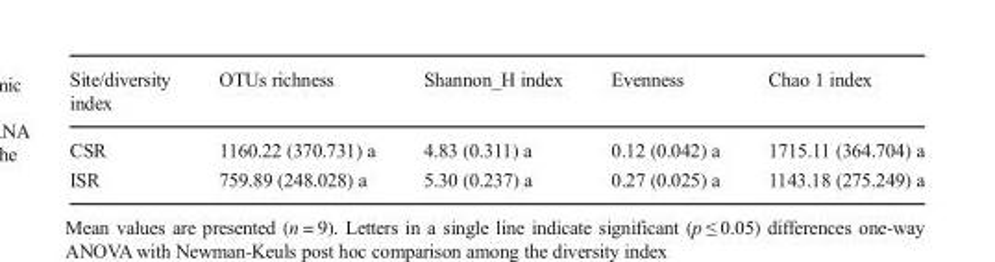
<table><thead><tr><td>Site/diversity index</td><td>OTUs richness</td><td>Shannon_H index</td><td>Evenness</td><td>Chao 1 index</td></tr></thead><tbody><tr><td>CSR</td><td>1160.22 (370.731) a</td><td>4.83 (0.311) a</td><td>0.12 (0.042) a</td><td>1715.11 (364.704) a</td></tr><tr><td>ISR</td><td>759.89 (248.028) a</td><td>5.30 (0.237) a</td><td>0.27 (0.025) a</td><td>1143.18 (275.249) a</td></tr></tbody></table>